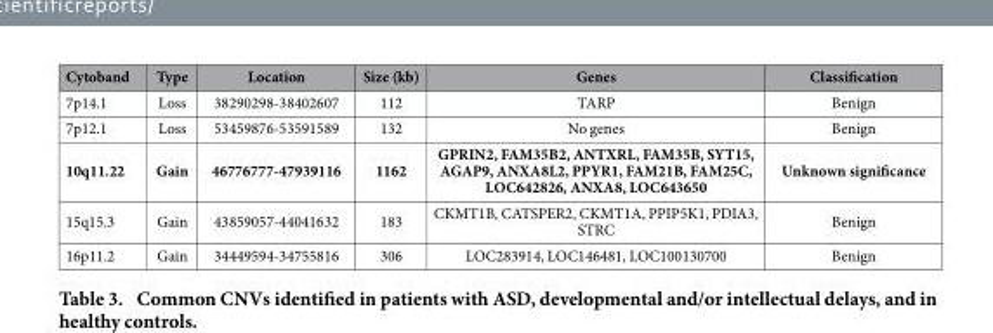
<table><thead><tr><td>Cytoband</td><td>Type</td><td>Location</td><td>Size (kb)</td><td>Genes</td><td>Classification</td></tr></thead><tbody><tr><td>7p14.1</td><td>Loss</td><td>38290298-38402607</td><td>112</td><td>TARP</td><td>Benign</td></tr><tr><td>7p12.1</td><td>Loss</td><td>53459876-53591589</td><td>132</td><td>No genes</td><td>Benign</td></tr><tr><td>10q11.22</td><td>Gain</td><td>46776777-47939116</td><td>1162</td><td>GPRIN2, FAM35B2, ANTXRL, FAM35B, SYT15, AGAP9, ANXA8L2, PPYR1, FAM21B, FAM25C, LOC642826, ANXA8, LOC643650</td><td>Unknown significance</td></tr><tr><td>15q15.3</td><td>Gain</td><td>43859057-44041632</td><td>183</td><td>CKMT1B, CATSPER2, CKMT1A, PPIP5K1, PDIA3, STRC</td><td>Benign</td></tr><tr><td>16p11.2</td><td>Gain</td><td>34449594-34755816</td><td>306</td><td>LOC283914, LOC146481, LOC100130700</td><td>Benign</td></tr></tbody></table>